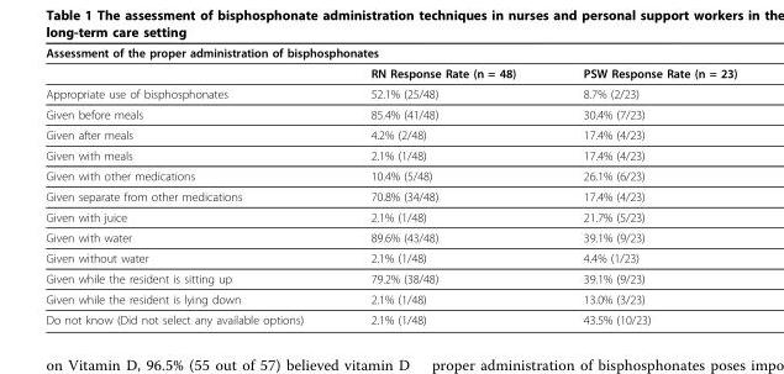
<table><thead><tr><td colspan="3">Assessment of the proper administration of bisphosphonates</td></tr><tr><td></td><td>RN Response Rate (n = 48)</td><td>PSW Response Rate (n = 23)</td></tr></thead><tbody><tr><td>Appropriate use of bisphosphonates</td><td>52.1% (25/48)</td><td>8.7% (2/23)</td></tr><tr><td>Given before meals</td><td>85.4% (41/48)</td><td>30.4% (7/23)</td></tr><tr><td>Given after meals</td><td>4.2% (2/48)</td><td>17.4% (4/23)</td></tr><tr><td>Given with meals</td><td>2.1% (1/48)</td><td>17.4% (4/23)</td></tr><tr><td>Given with other medications</td><td>10.4% (5/48)</td><td>26.1% (6/23)</td></tr><tr><td>Given separate from other medications</td><td>70.8% (34/48)</td><td>17.4% (4/23)</td></tr><tr><td>Given with juice</td><td>2.1% (1/48)</td><td>21.7% (5/23)</td></tr><tr><td>Given with water</td><td>89.6% (43/48)</td><td>39.1% (9/23)</td></tr><tr><td>Given without water</td><td>2.1% (1/48)</td><td>4.4% (1/23)</td></tr><tr><td>Given while the resident is sitting up</td><td>79.2% (38/48)</td><td>39.1% (9/23)</td></tr><tr><td>Given while the resident is lying down</td><td>2.1% (1/48)</td><td>13.0% (3/23)</td></tr><tr><td>Do not know (Did not select any available options)</td><td>2.1% (1/48)</td><td>43.5% (10/23)</td></tr></tbody></table>